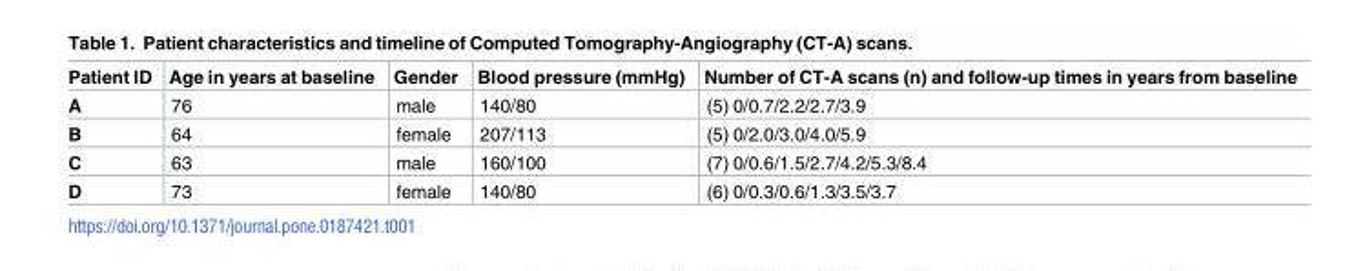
<table><thead><tr><td>Patient ID</td><td>Age in years at baseline</td><td>Gender</td><td>Blood pressure (mmHg)</td><td>Number of CT-A scans (n) and follow-up times in years from baseline</td></tr></thead><tbody><tr><td>A</td><td>76</td><td>male</td><td>140/80</td><td>(5) 0/0.7/2.2/2.7/3.9</td></tr><tr><td>B</td><td>64</td><td>female</td><td>207/113</td><td>(5) 0/2.0/3.0/4.0/5.9</td></tr><tr><td>C</td><td>63</td><td>male</td><td>160/100</td><td>(7) 0/0.6/1.5/2.7/4.2/5.3/8.4</td></tr><tr><td>D</td><td>73</td><td>female</td><td>140/80</td><td>(6) 0/0.3/0.6/1.3/3.5/3.7</td></tr></tbody></table>